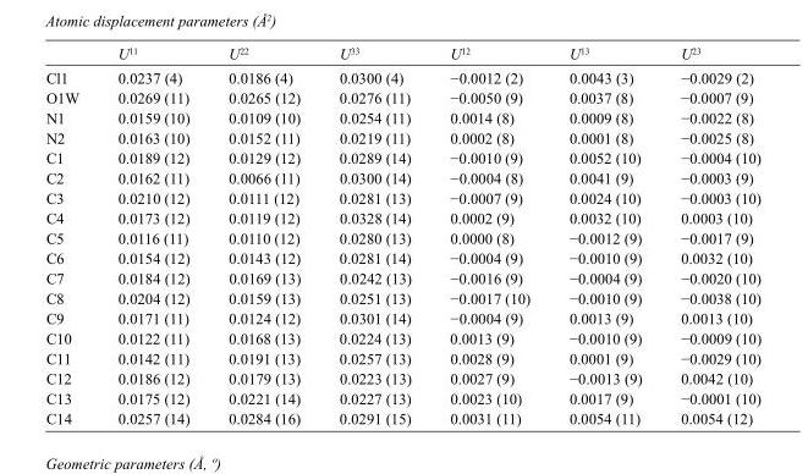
<table><thead><tr><td></td><td>U<sup>11</sup></td><td>U<sup>22</sup></td><td>U<sup>33</sup></td><td>U<sup>12</sup></td><td>U<sup>13</sup></td><td>U<sup>23</sup></td></tr></thead><tbody><tr><td>Cl1</td><td>0.0237 (4)</td><td>0.0186 (4)</td><td>0.0300 (4)</td><td>−0.0012 (2)</td><td>0.0043 (3)</td><td>−0.0029 (2)</td></tr><tr><td>O1W</td><td>0.0269 (11)</td><td>0.0265 (12)</td><td>0.0276 (11)</td><td>−0.0050 (9)</td><td>0.0037 (8)</td><td>−0.0007 (9)</td></tr><tr><td>N1</td><td>0.0159 (10)</td><td>0.0109 (10)</td><td>0.0254 (11)</td><td>0.0014 (8)</td><td>0.0009 (8)</td><td>−0.0022 (8)</td></tr><tr><td>N2</td><td>0.0163 (10)</td><td>0.0152 (11)</td><td>0.0219 (11)</td><td>0.0002 (8)</td><td>0.0001 (8)</td><td>−0.0025 (8)</td></tr><tr><td>C1</td><td>0.0189 (12)</td><td>0.0129 (12)</td><td>0.0289 (14)</td><td>−0.0010 (9)</td><td>0.0052 (10)</td><td>−0.0004 (10)</td></tr><tr><td>C2</td><td>0.0162 (11)</td><td>0.0066 (11)</td><td>0.0300 (14)</td><td>−0.0004 (8)</td><td>0.0041 (9)</td><td>−0.0003 (9)</td></tr><tr><td>C3</td><td>0.0210 (12)</td><td>0.0111 (12)</td><td>0.0281 (13)</td><td>−0.0007 (9)</td><td>0.0024 (10)</td><td>−0.0003 (10)</td></tr><tr><td>C4</td><td>0.0173 (12)</td><td>0.0119 (12)</td><td>0.0328 (14)</td><td>0.0002 (9)</td><td>0.0032 (10)</td><td>0.0003 (10)</td></tr><tr><td>C5</td><td>0.0116 (11)</td><td>0.0110 (12)</td><td>0.0280 (13)</td><td>0.0000 (8)</td><td>−0.0012 (9)</td><td>−0.0017 (9)</td></tr><tr><td>C6</td><td>0.0154 (12)</td><td>0.0143 (12)</td><td>0.0281 (14)</td><td>−0.0004 (9)</td><td>−0.0010 (9)</td><td>0.0032 (10)</td></tr><tr><td>C7</td><td>0.0184 (12)</td><td>0.0169 (13)</td><td>0.0242 (13)</td><td>−0.0016 (9)</td><td>−0.0004 (9)</td><td>−0.0020 (10)</td></tr><tr><td>C8</td><td>0.0204 (12)</td><td>0.0159 (13)</td><td>0.0251 (13)</td><td>−0.0017 (10)</td><td>−0.0010 (9)</td><td>−0.0038 (10)</td></tr><tr><td>C9</td><td>0.0171 (11)</td><td>0.0124 (12)</td><td>0.0301 (14)</td><td>−0.0004 (9)</td><td>0.0013 (9)</td><td>0.0013 (10)</td></tr><tr><td>C10</td><td>0.0122 (11)</td><td>0.0168 (13)</td><td>0.0224 (13)</td><td>0.0013 (9)</td><td>−0.0010 (9)</td><td>−0.0009 (10)</td></tr><tr><td>C11</td><td>0.0142 (11)</td><td>0.0191 (13)</td><td>0.0257 (13)</td><td>0.0028 (9)</td><td>0.0001 (9)</td><td>−0.0029 (10)</td></tr><tr><td>C12</td><td>0.0186 (12)</td><td>0.0179 (13)</td><td>0.0223 (13)</td><td>0.0027 (9)</td><td>−0.0013 (9)</td><td>0.0042 (10)</td></tr><tr><td>C13</td><td>0.0175 (12)</td><td>0.0221 (14)</td><td>0.0227 (13)</td><td>0.0023 (10)</td><td>0.0017 (9)</td><td>−0.0001 (10)</td></tr><tr><td>C14</td><td>0.0257 (14)</td><td>0.0284 (16)</td><td>0.0291 (15)</td><td>0.0031 (11)</td><td>0.0054 (11)</td><td>0.0054 (12)</td></tr></tbody></table>